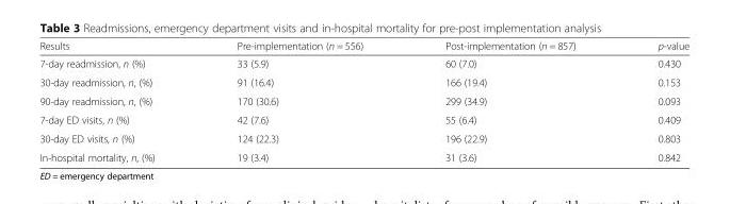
<table><thead><tr><td>Results</td><td>Pre-implementation (n = 556)</td><td>Post-implementation (n = 857)</td><td>p-value</td></tr></thead><tbody><tr><td>7-day readmission, n (%)</td><td>33 (5.9)</td><td>60 (7.0)</td><td>0.430</td></tr><tr><td>30-day readmission, n, (%)</td><td>91 (16.4)</td><td>166 (19.4)</td><td>0.153</td></tr><tr><td>90-day readmission, n, (%)</td><td>170 (30.6)</td><td>299 (34.9)</td><td>0.093</td></tr><tr><td>7-day ED visits, n (%)</td><td>42 (7.6)</td><td>55 (6.4)</td><td>0.409</td></tr><tr><td>30-day ED visits, n (%)</td><td>124 (22.3)</td><td>196 (22.9)</td><td>0.803</td></tr><tr><td>In-hospital mortality, n, (%)</td><td>19 (3.4)</td><td>31 (3.6)</td><td>0.842</td></tr></tbody></table>